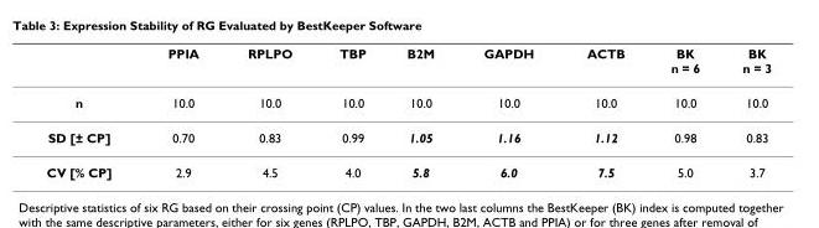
<table><thead><tr><td></td><td>PPIA</td><td>RPLPO</td><td>TBP</td><td>B2M</td><td>GAPDH</td><td>ACTB</td><td>BK n = 6</td><td>BK n = 3</td></tr></thead><tbody><tr><td>n</td><td>10.0</td><td>10.0</td><td>10.0</td><td>10.0</td><td>10.0</td><td>10.0</td><td>10.0</td><td>10.0</td></tr><tr><td>SD [± CP]</td><td>0.70</td><td>0.83</td><td>0.99</td><td>1.05</td><td>1.16</td><td>1.12</td><td>0.98</td><td>0.83</td></tr><tr><td>CV [% CP]</td><td>2.9</td><td>4.5</td><td>4.0</td><td>5.8</td><td>6.0</td><td>7.5</td><td>5.0</td><td>3.7</td></tr></tbody></table>